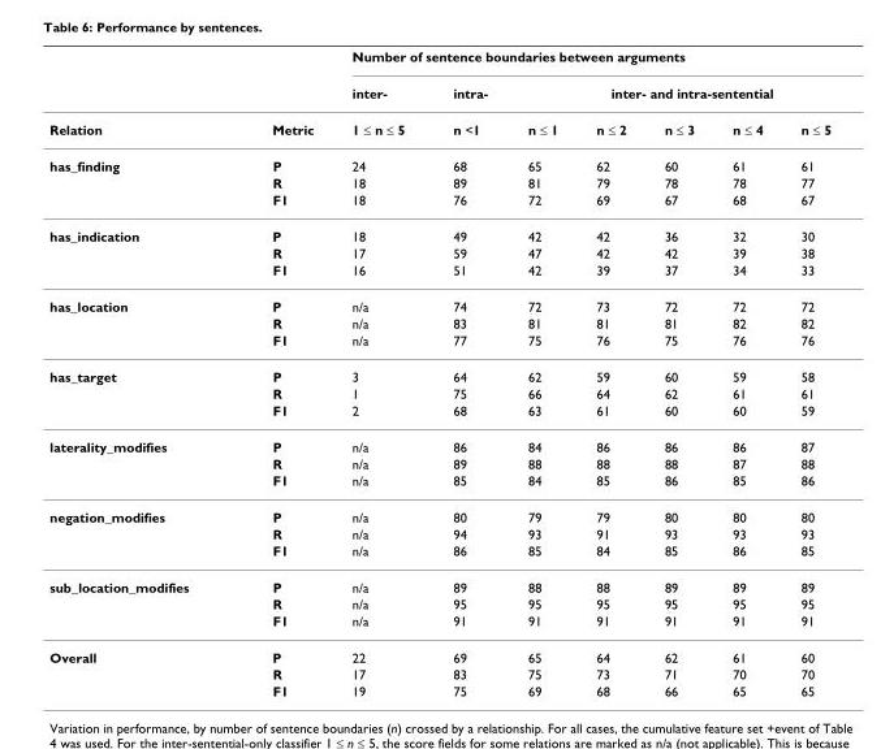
<table><thead><tr><td rowspan="3">Relation</td><td rowspan="3">Metric</td><td colspan="7">Number of sentence boundaries between arguments</td></tr><tr><td rowspan="2">inter- 1 ≤ n ≤ 5</td><td rowspan="2">intra- n &lt;1</td><td colspan="5">inter- and intra-sentential</td></tr><tr><td>n ≤ 1</td><td>n ≤ 2</td><td>n ≤ 3</td><td>n ≤ 4</td><td>n ≤ 5</td></tr></thead><tbody><tr><td rowspan="3">has_finding</td><td>P</td><td>24</td><td>68</td><td>65</td><td>62</td><td>60</td><td>61</td><td>61</td></tr><tr><td>R</td><td>18</td><td>89</td><td>81</td><td>79</td><td>78</td><td>78</td><td>77</td></tr><tr><td>F1</td><td>18</td><td>76</td><td>72</td><td>69</td><td>67</td><td>68</td><td>67</td></tr><tr><td rowspan="3">has_indication</td><td>P</td><td>18</td><td>49</td><td>42</td><td>42</td><td>36</td><td>32</td><td>30</td></tr><tr><td>R</td><td>17</td><td>59</td><td>47</td><td>42</td><td>42</td><td>39</td><td>38</td></tr><tr><td>F1</td><td>16</td><td>51</td><td>42</td><td>39</td><td>37</td><td>34</td><td>33</td></tr><tr><td rowspan="3">has_location</td><td>P</td><td>n/a</td><td>74</td><td>72</td><td>73</td><td>72</td><td>72</td><td>72</td></tr><tr><td>R</td><td>n/a</td><td>83</td><td>81</td><td>81</td><td>81</td><td>82</td><td>82</td></tr><tr><td>F1</td><td>n/a</td><td>77</td><td>75</td><td>76</td><td>75</td><td>76</td><td>76</td></tr><tr><td rowspan="3">has_target</td><td>P</td><td>3</td><td>64</td><td>62</td><td>59</td><td>60</td><td>59</td><td>58</td></tr><tr><td>R</td><td>1</td><td>75</td><td>66</td><td>64</td><td>62</td><td>61</td><td>61</td></tr><tr><td>F1</td><td>2</td><td>68</td><td>63</td><td>61</td><td>60</td><td>60</td><td>59</td></tr><tr><td rowspan="3">laterality_modifies</td><td>P</td><td>n/a</td><td>86</td><td>84</td><td>86</td><td>86</td><td>86</td><td>87</td></tr><tr><td>R</td><td>n/a</td><td>89</td><td>88</td><td>88</td><td>88</td><td>87</td><td>88</td></tr><tr><td>F1</td><td>n/a</td><td>85</td><td>84</td><td>85</td><td>86</td><td>85</td><td>86</td></tr><tr><td rowspan="3">negation_modifies</td><td>P</td><td>n/a</td><td>80</td><td>79</td><td>79</td><td>80</td><td>80</td><td>80</td></tr><tr><td>R</td><td>n/a</td><td>94</td><td>93</td><td>91</td><td>93</td><td>93</td><td>93</td></tr><tr><td>F1</td><td>n/a</td><td>86</td><td>85</td><td>84</td><td>85</td><td>86</td><td>85</td></tr><tr><td rowspan="3">sub_location_modifies</td><td>P</td><td>n/a</td><td>89</td><td>88</td><td>88</td><td>89</td><td>89</td><td>89</td></tr><tr><td>R</td><td>n/a</td><td>95</td><td>95</td><td>95</td><td>95</td><td>95</td><td>95</td></tr><tr><td>F1</td><td>n/a</td><td>91</td><td>91</td><td>91</td><td>91</td><td>91</td><td>91</td></tr><tr><td rowspan="3">Overall</td><td>P</td><td>22</td><td>69</td><td>65</td><td>64</td><td>62</td><td>61</td><td>60</td></tr><tr><td>R</td><td>17</td><td>83</td><td>75</td><td>73</td><td>71</td><td>70</td><td>70</td></tr><tr><td>F1</td><td>19</td><td>75</td><td>69</td><td>68</td><td>66</td><td>65</td><td>65</td></tr></tbody></table>